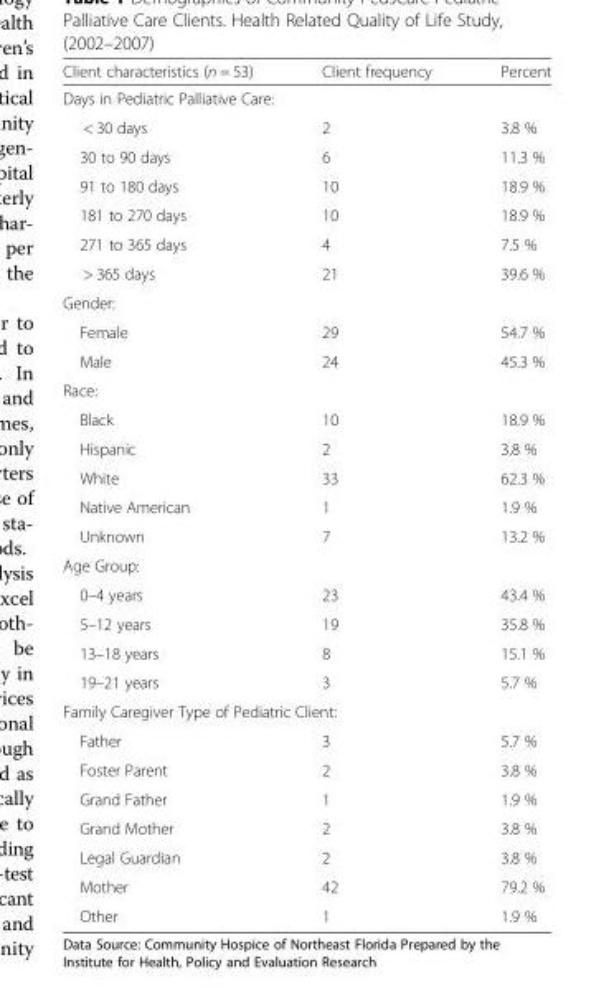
<table><thead><tr><td>Client characteristics (n = 53)</td><td>Client frequency</td><td>Percent</td></tr></thead><tbody><tr><td colspan="3">Days in Pediatric Palliative Care:</td></tr><tr><td>&lt; 30 days</td><td>2</td><td>3.8 %</td></tr><tr><td>30 to 90 days</td><td>6</td><td>11.3 %</td></tr><tr><td>91 to 180 days</td><td>10</td><td>18.9 %</td></tr><tr><td>181 to 270 days</td><td>10</td><td>18.9 %</td></tr><tr><td>271 to 365 days</td><td>4</td><td>7.5 %</td></tr><tr><td>&gt; 365 days</td><td>21</td><td>39.6 %</td></tr><tr><td colspan="3">Gender:</td></tr><tr><td>Female</td><td>29</td><td>54.7 %</td></tr><tr><td>Male</td><td>24</td><td>45.3 %</td></tr><tr><td colspan="3">Race:</td></tr><tr><td>Black</td><td>10</td><td>18.9 %</td></tr><tr><td>Hispanic</td><td>2</td><td>3.8 %</td></tr><tr><td>White</td><td>33</td><td>62.3 %</td></tr><tr><td>Native American</td><td>1</td><td>1.9 %</td></tr><tr><td>Unknown</td><td>7</td><td>13.2 %</td></tr><tr><td colspan="3">Age Group:</td></tr><tr><td>0–4 years</td><td>23</td><td>43.4 %</td></tr><tr><td>5–12 years</td><td>19</td><td>35.8 %</td></tr><tr><td>13–18 years</td><td>8</td><td>15.1 %</td></tr><tr><td>19–21 years</td><td>3</td><td>5.7 %</td></tr><tr><td colspan="3">Family Caregiver Type of Pediatric Client:</td></tr><tr><td>Father</td><td>3</td><td>5.7 %</td></tr><tr><td>Foster Parent</td><td>2</td><td>3.8 %</td></tr><tr><td>Grand Father</td><td>1</td><td>1.9 %</td></tr><tr><td>Grand Mother</td><td>2</td><td>3.8 %</td></tr><tr><td>Legal Guardian</td><td>2</td><td>3.8 %</td></tr><tr><td>Mother</td><td>42</td><td>79.2 %</td></tr><tr><td>Other</td><td>1</td><td>1.9 %</td></tr></tbody></table>